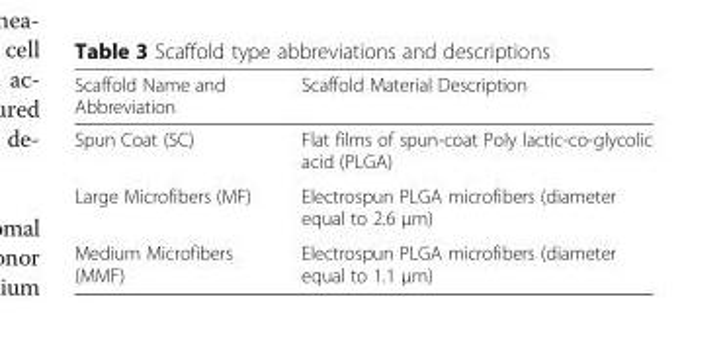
<table><thead><tr><td>Scaffold Name and Abbreviation</td><td>Scaffold Material Description</td></tr></thead><tbody><tr><td>Spun Coat (SC)</td><td>Flat films of spun-coat Poly lactic-co-glycolic acid (PLGA)</td></tr><tr><td>Large Microfibers (MF)</td><td>Electrospun PLGA microfibers (diameter equal to 2.6 μm)</td></tr><tr><td>Medium Microfibers (MMF)</td><td>Electrospun PLGA microfibers (diameter equal to 1.1 μm)</td></tr></tbody></table>